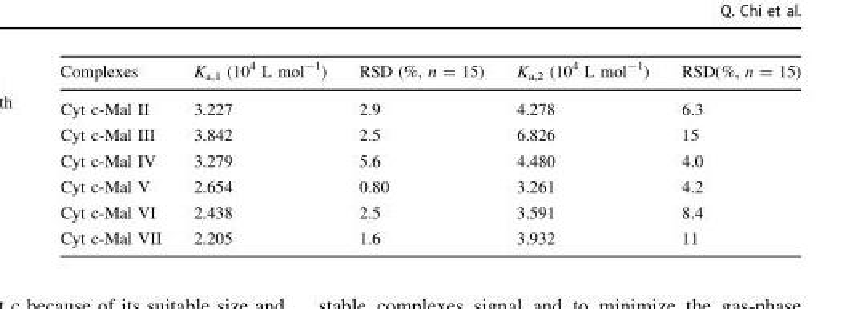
<table><thead><tr><td>Complexes</td><td>K<sub>a,1</sub> (10<sup>4</sup> L mol<sup>-1</sup>)</td><td>RSD (%, n = 15)</td><td>K<sub>a,2</sub> (10<sup>4</sup> L mol<sup>-1</sup>)</td><td>RSD(%, n = 15)</td></tr></thead><tbody><tr><td>Cyt c-Mal II</td><td>3.227</td><td>2.9</td><td>4.278</td><td>6.3</td></tr><tr><td>Cyt c-Mal III</td><td>3.842</td><td>2.5</td><td>6.826</td><td>15</td></tr><tr><td>Cyt c-Mal IV</td><td>3.279</td><td>5.6</td><td>4.480</td><td>4.0</td></tr><tr><td>Cyt c-Mal V</td><td>2.654</td><td>0.80</td><td>3.261</td><td>4.2</td></tr><tr><td>Cyt c-Mal VI</td><td>2.438</td><td>2.5</td><td>3.591</td><td>8.4</td></tr><tr><td>Cyt c-Mal VII</td><td>2.205</td><td>1.6</td><td>3.932</td><td>11</td></tr></tbody></table>